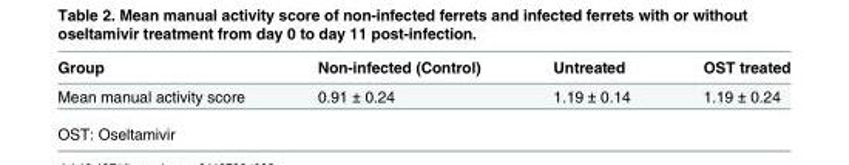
<table><thead><tr><td>Group</td><td>Non-infected (Control)</td><td>Untreated</td><td>OST treated</td></tr></thead><tbody><tr><td>Mean manual activity score</td><td>0.91 ± 0.24</td><td>1.19 ± 0.14</td><td>1.19 ± 0.24</td></tr></tbody></table>